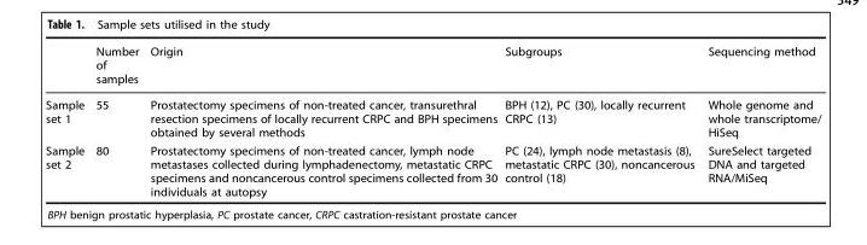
<table><thead><tr><td></td><td>Number of samples</td><td>Origin</td><td>Subgroups</td><td>Sequencing method</td></tr></thead><tbody><tr><td>Sample set 1</td><td>55</td><td>Prostatectomy specimens of non-treated cancer, transurethral resection specimens of locally recurrent CRPC and BPH specimens obtained by several methods</td><td>BPH (12), PC (30), locally recurrent CRPC (13)</td><td>Whole genome and whole transcriptome/ HiSeq</td></tr><tr><td>Sample set 2</td><td>80</td><td>Prostatectomy specimens of non-treated cancer, lymph node metastases collected during lymphadenectomy, metastatic CRPC specimens and noncancerous control specimens collected from 30 individuals at autopsy</td><td>PC (24), lymph node metastasis (8), metastatic CRPC (30), noncancerous control (18)</td><td>SureSelect targeted DNA and targeted RNA/MiSeq</td></tr></tbody></table>